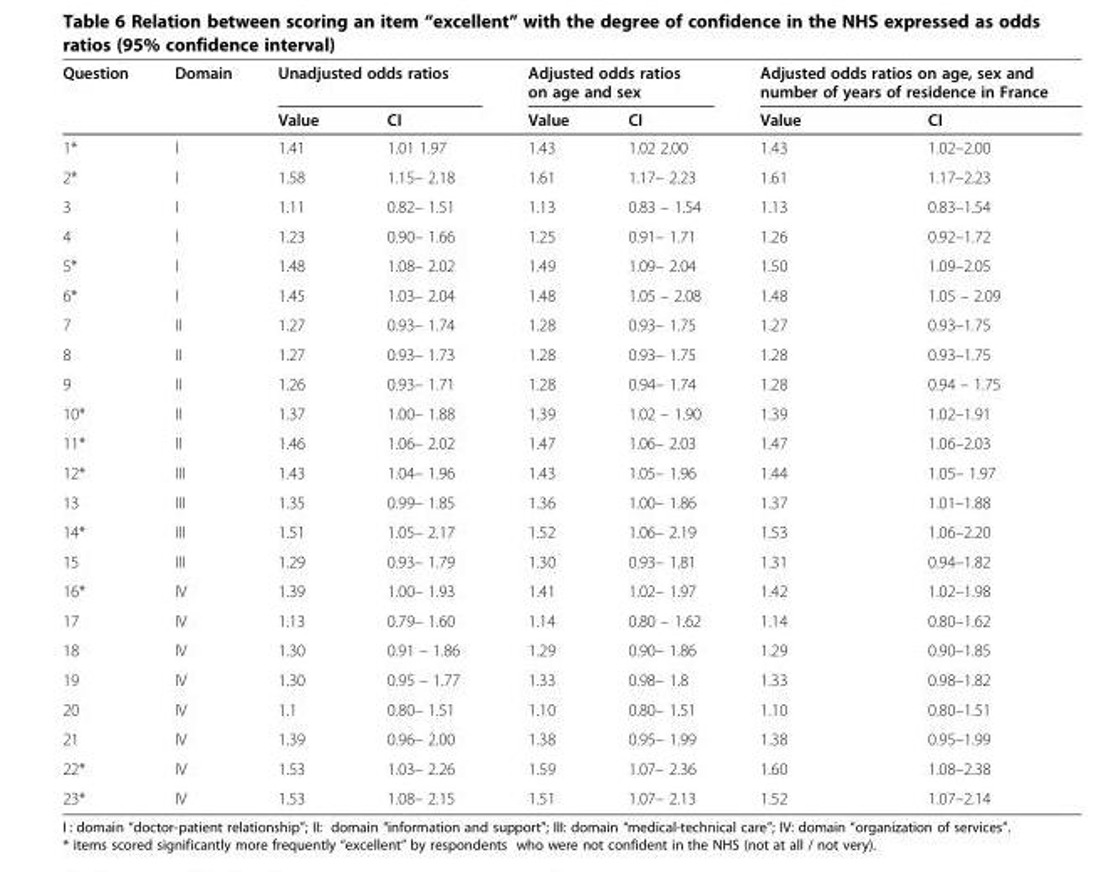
<table><thead><tr><td rowspan="2">Question</td><td rowspan="2">Domain</td><td colspan="2">Unadjusted odds ratios</td><td colspan="2">Adjusted odds ratios on age and sex</td><td colspan="2">Adjusted odds ratios on age, sex and number of years of residence in France</td></tr><tr><td>Value</td><td>CI</td><td>Value</td><td>CI</td><td>Value</td><td>CI</td></tr></thead><tbody><tr><td>1*</td><td>I</td><td>1.41</td><td>1.01 1.97</td><td>1.43</td><td>1.02 2.00</td><td>1.43</td><td>1.02–2.00</td></tr><tr><td>2*</td><td>I</td><td>1.58</td><td>1.15– 2.18</td><td>1.61</td><td>1.17– 2.23</td><td>1.61</td><td>1.17–2.23</td></tr><tr><td>3</td><td>I</td><td>1.11</td><td>0.82– 1.51</td><td>1.13</td><td>0.83 – 1.54</td><td>1.13</td><td>0.83–1.54</td></tr><tr><td>4</td><td>I</td><td>1.23</td><td>0.90– 1.66</td><td>1.25</td><td>0.91– 1.71</td><td>1.26</td><td>0.92–1.72</td></tr><tr><td>5*</td><td>I</td><td>1.48</td><td>1.08– 2.02</td><td>1.49</td><td>1.09– 2.04</td><td>1.50</td><td>1.09–2.05</td></tr><tr><td>6*</td><td>I</td><td>1.45</td><td>1.03– 2.04</td><td>1.48</td><td>1.05 – 2.08</td><td>1.48</td><td>1.05 – 2.09</td></tr><tr><td>7</td><td>II</td><td>1.27</td><td>0.93– 1.74</td><td>1.28</td><td>0.93– 1.75</td><td>1.27</td><td>0.93–1.75</td></tr><tr><td>8</td><td>II</td><td>1.27</td><td>0.93– 1.73</td><td>1.28</td><td>0.93– 1.75</td><td>1.28</td><td>0.93–1.75</td></tr><tr><td>9</td><td>II</td><td>1.26</td><td>0.93– 1.71</td><td>1.28</td><td>0.94– 1.74</td><td>1.28</td><td>0.94 – 1.75</td></tr><tr><td>10*</td><td>II</td><td>1.37</td><td>1.00– 1.88</td><td>1.39</td><td>1.02 – 1.90</td><td>1.39</td><td>1.02–1.91</td></tr><tr><td>11*</td><td>II</td><td>1.46</td><td>1.06– 2.02</td><td>1.47</td><td>1.06– 2.03</td><td>1.47</td><td>1.06–2.03</td></tr><tr><td>12*</td><td>III</td><td>1.43</td><td>1.04– 1.96</td><td>1.43</td><td>1.05– 1.96</td><td>1.44</td><td>1.05– 1.97</td></tr><tr><td>13</td><td>III</td><td>1.35</td><td>0.99– 1.85</td><td>1.36</td><td>1.00– 1.86</td><td>1.37</td><td>1.01–1.88</td></tr><tr><td>14*</td><td>III</td><td>1.51</td><td>1.05– 2.17</td><td>1.52</td><td>1.06– 2.19</td><td>1.53</td><td>1.06–2.20</td></tr><tr><td>15</td><td>III</td><td>1.29</td><td>0.93– 1.79</td><td>1.30</td><td>0.93– 1.81</td><td>1.31</td><td>0.94–1.82</td></tr><tr><td>16*</td><td>IV</td><td>1.39</td><td>1.00– 1.93</td><td>1.41</td><td>1.02– 1.97</td><td>1.42</td><td>1.02–1.98</td></tr><tr><td>17</td><td>IV</td><td>1.13</td><td>0.79– 1.60</td><td>1.14</td><td>0.80 – 1.62</td><td>1.14</td><td>0.80–1.62</td></tr><tr><td>18</td><td>IV</td><td>1.30</td><td>0.91 – 1.86</td><td>1.29</td><td>0.90– 1.86</td><td>1.29</td><td>0.90–1.85</td></tr><tr><td>19</td><td>IV</td><td>1.30</td><td>0.95 – 1.77</td><td>1.33</td><td>0.98– 1.8</td><td>1.33</td><td>0.98–1.82</td></tr><tr><td>20</td><td>IV</td><td>1.1</td><td>0.80– 1.51</td><td>1.10</td><td>0.80– 1.51</td><td>1.10</td><td>0.80–1.51</td></tr><tr><td>21</td><td>IV</td><td>1.39</td><td>0.96– 2.00</td><td>1.38</td><td>0.95– 1.99</td><td>1.38</td><td>0.95–1.99</td></tr><tr><td>22*</td><td>IV</td><td>1.53</td><td>1.03– 2.26</td><td>1.59</td><td>1.07– 2.36</td><td>1.60</td><td>1.08–2.38</td></tr><tr><td>23*</td><td>IV</td><td>1.53</td><td>1.08– 2.15</td><td>1.51</td><td>1.07– 2.13</td><td>1.52</td><td>1.07–2.14</td></tr></tbody></table>